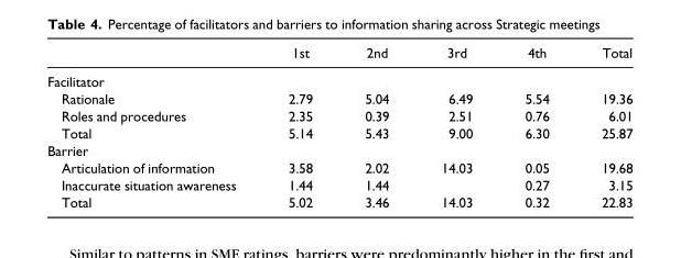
<table><thead><tr><td></td><td>1st</td><td>2nd</td><td>3rd</td><td>4th</td><td>Total</td></tr></thead><tbody><tr><td colspan="6">Facilitator</td></tr><tr><td>Rationale</td><td>2.79</td><td>5.04</td><td>6.49</td><td>5.54</td><td>19.36</td></tr><tr><td>Roles and procedures</td><td>2.35</td><td>0.39</td><td>2.51</td><td>0.76</td><td>6.01</td></tr><tr><td>Total</td><td>5.14</td><td>5.43</td><td>9.00</td><td>6.30</td><td>25.87</td></tr><tr><td colspan="6">Barrier</td></tr><tr><td>Articulation of information</td><td>3.58</td><td>2.02</td><td>14.03</td><td>0.05</td><td>19.68</td></tr><tr><td>Inaccurate situation awareness</td><td>1.44</td><td>1.44</td><td></td><td>0.27</td><td>3.15</td></tr><tr><td>Total</td><td>5.02</td><td>3.46</td><td>14.03</td><td>0.32</td><td>22.83</td></tr></tbody></table>